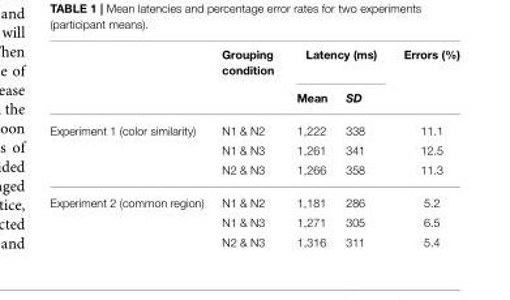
<table><thead><tr><td rowspan="2"></td><td rowspan="2">Grouping condition</td><td colspan="2">Latency (ms)</td><td rowspan="2">Errors (%)</td></tr><tr><td>Mean</td><td>SD</td></tr></thead><tbody><tr><td rowspan="3">Experiment 1 (color similarity)</td><td>N1 &amp; N2</td><td>1,222</td><td>338</td><td>11.1</td></tr><tr><td>N1 &amp; N3</td><td>1,261</td><td>341</td><td>12.5</td></tr><tr><td>N2 &amp; N3</td><td>1,266</td><td>358</td><td>11.3</td></tr><tr><td rowspan="3">Experiment 2 (common region)</td><td>N1 &amp; N2</td><td>1,181</td><td>286</td><td>5.2</td></tr><tr><td>N1 &amp; N3</td><td>1,271</td><td>305</td><td>6.5</td></tr><tr><td>N2 &amp; N3</td><td>1,316</td><td>311</td><td>5.4</td></tr></tbody></table>